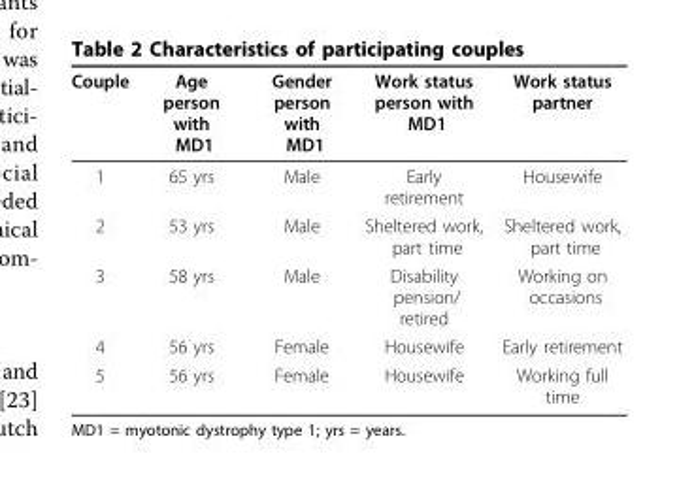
<table><thead><tr><td>Couple</td><td>Age person with MD1</td><td>Gender person with MD1</td><td>Work status person with MD1</td><td>Work status partner</td></tr></thead><tbody><tr><td>1</td><td>65 yrs</td><td>Male</td><td>Early retirement</td><td>Housewife</td></tr><tr><td>2</td><td>53 yrs</td><td>Male</td><td>Sheltered work, part time</td><td>Sheltered work, part time</td></tr><tr><td>3</td><td>58 yrs</td><td>Male</td><td>Disability pension/ retired</td><td>Working on occasions</td></tr><tr><td>4</td><td>56 yrs</td><td>Female</td><td>Housewife</td><td>Early retirement</td></tr><tr><td>5</td><td>56 yrs</td><td>Female</td><td>Housewife</td><td>Working full time</td></tr></tbody></table>